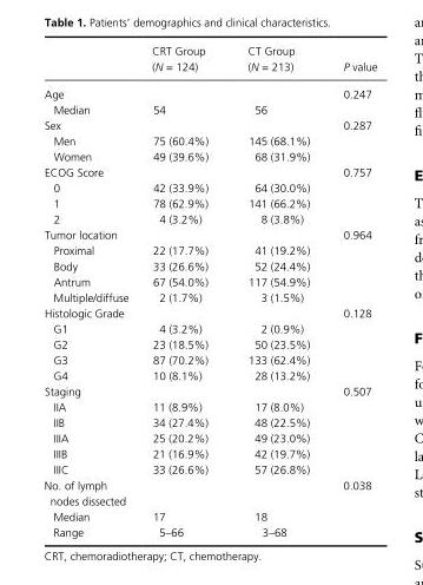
<table><thead><tr><td></td><td>CRT Group (N = 124)</td><td>CT Group (N = 213)</td><td>P value</td></tr></thead><tbody><tr><td>Age</td><td></td><td></td><td>0.247</td></tr><tr><td>Median</td><td>54</td><td>56</td><td></td></tr><tr><td>Sex</td><td></td><td></td><td>0.287</td></tr><tr><td>Men</td><td>75 (60.4%)</td><td>145 (68.1%)</td><td></td></tr><tr><td>Women</td><td>49 (39.6%)</td><td>68 (31.9%)</td><td></td></tr><tr><td>ECOG Score</td><td></td><td></td><td>0.757</td></tr><tr><td>0</td><td>42 (33.9%)</td><td>64 (30.0%)</td><td></td></tr><tr><td>1</td><td>78 (62.9%)</td><td>141 (66.2%)</td><td></td></tr><tr><td>2</td><td>4 (3.2%)</td><td>8 (3.8%)</td><td></td></tr><tr><td>Tumor location</td><td></td><td></td><td>0.964</td></tr><tr><td>Proximal</td><td>22 (17.7%)</td><td>41 (19.2%)</td><td></td></tr><tr><td>Body</td><td>33 (26.6%)</td><td>52 (24.4%)</td><td></td></tr><tr><td>Antrum</td><td>67 (54.0%)</td><td>117 (54.9%)</td><td></td></tr><tr><td>Multiple/diffuse</td><td>2 (1.7%)</td><td>3 (1.5%)</td><td></td></tr><tr><td>Histologic Grade</td><td></td><td></td><td>0.128</td></tr><tr><td>G1</td><td>4 (3.2%)</td><td>2 (0.9%)</td><td></td></tr><tr><td>G2</td><td>23 (18.5%)</td><td>50 (23.5%)</td><td></td></tr><tr><td>G3</td><td>87 (70.2%)</td><td>133 (62.4%)</td><td></td></tr><tr><td>G4</td><td>10 (8.1%)</td><td>28 (13.2%)</td><td></td></tr><tr><td>Staging</td><td></td><td></td><td>0.507</td></tr><tr><td>IIA</td><td>11 (8.9%)</td><td>17 (8.0%)</td><td></td></tr><tr><td>IIB</td><td>34 (27.4%)</td><td>48 (22.5%)</td><td></td></tr><tr><td>IIIA</td><td>25 (20.2%)</td><td>49 (23.0%)</td><td></td></tr><tr><td>IIIB</td><td>21 (16.9%)</td><td>42 (19.7%)</td><td></td></tr><tr><td>IIIC</td><td>33 (26.6%)</td><td>57 (26.8%)</td><td></td></tr><tr><td>No. of lymph nodes dissected</td><td></td><td></td><td>0.038</td></tr><tr><td>Median</td><td>17</td><td>18</td><td></td></tr><tr><td>Range</td><td>5–66</td><td>3–68</td><td></td></tr></tbody></table>